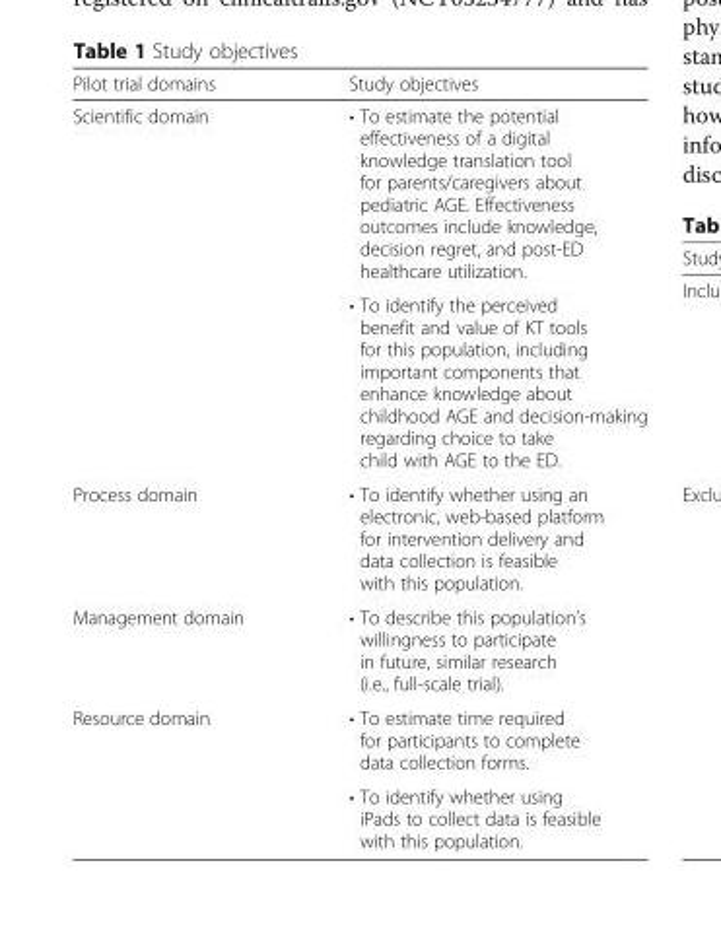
<table><thead><tr><td>Pilot trial domains</td><td>Study objectives</td></tr></thead><tbody><tr><td rowspan="2">Scientific domain</td><td>• To estimate the potential effectiveness of a digital knowledge translation tool for parents/caregivers about pediatric AGE. Effectiveness outcomes include knowledge, decision regret, and post-ED healthcare utilization.</td></tr><tr><td>• To identify the perceived benefit and value of KT tools for this population, including important components that enhance knowledge about childhood AGE and decision-making regarding choice to take child with AGE to the ED.</td></tr><tr><td>Process domain</td><td>• To identify whether using an electronic, web-based platform for intervention delivery and data collection is feasible with this population.</td></tr><tr><td>Management domain</td><td>• To describe this population’s willingness to participate in future, similar research (i.e., full-scale trial).</td></tr><tr><td rowspan="2">Resource domain</td><td>• To estimate time required for participants to complete data collection forms.</td></tr><tr><td>• To identify whether using iPads to collect data is feasible with this population.</td></tr></tbody></table>